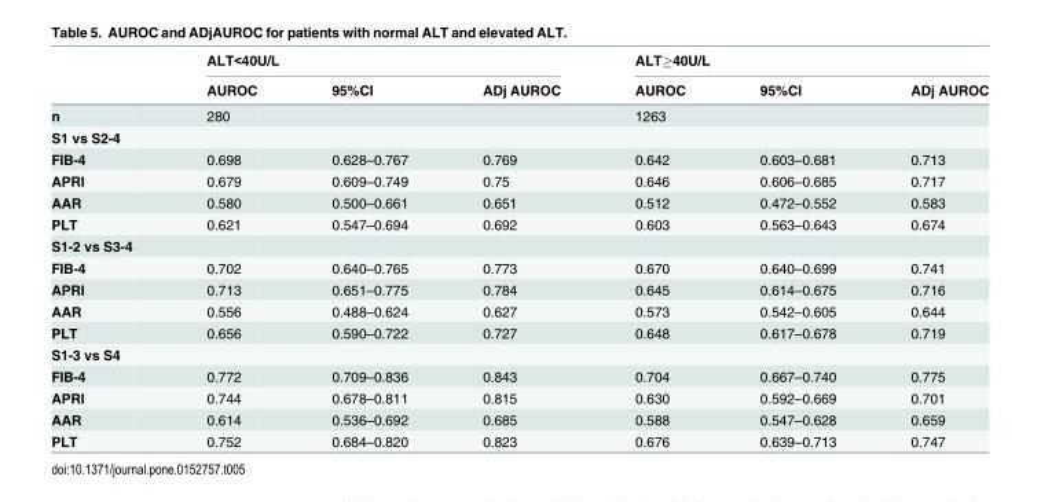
<table><thead><tr><td rowspan="2"></td><td colspan="3">ALT&lt;40U/L</td><td colspan="3">ALT≥40U/L</td></tr><tr><td>AUROC</td><td>95%CI</td><td>ADj AUROC</td><td>AUROC</td><td>95%CI</td><td>ADj AUROC</td></tr></thead><tbody><tr><td>n</td><td>280</td><td></td><td></td><td>1263</td><td></td><td></td></tr><tr><td colspan="7">S1 vs S2-4</td></tr><tr><td>FIB-4</td><td>0.698</td><td>0.628–0.767</td><td>0.769</td><td>0.642</td><td>0.603–0.681</td><td>0.713</td></tr><tr><td>APRI</td><td>0.679</td><td>0.609–0.749</td><td>0.75</td><td>0.646</td><td>0.606–0.685</td><td>0.717</td></tr><tr><td>AAR</td><td>0.580</td><td>0.500–0.661</td><td>0.651</td><td>0.512</td><td>0.472–0.552</td><td>0.583</td></tr><tr><td>PLT</td><td>0.621</td><td>0.547–0.694</td><td>0.692</td><td>0.603</td><td>0.563–0.643</td><td>0.674</td></tr><tr><td colspan="7">S1-2 vs S3-4</td></tr><tr><td>FIB-4</td><td>0.702</td><td>0.640–0.765</td><td>0.773</td><td>0.670</td><td>0.640–0.699</td><td>0.741</td></tr><tr><td>APRI</td><td>0.713</td><td>0.651–0.775</td><td>0.784</td><td>0.645</td><td>0.614–0.675</td><td>0.716</td></tr><tr><td>AAR</td><td>0.556</td><td>0.488–0.624</td><td>0.627</td><td>0.573</td><td>0.542–0.605</td><td>0.644</td></tr><tr><td>PLT</td><td>0.656</td><td>0.590–0.722</td><td>0.727</td><td>0.648</td><td>0.617–0.678</td><td>0.719</td></tr><tr><td colspan="7">S1-3 vs S4</td></tr><tr><td>FIB-4</td><td>0.772</td><td>0.709–0.836</td><td>0.843</td><td>0.704</td><td>0.667–0.740</td><td>0.775</td></tr><tr><td>APRI</td><td>0.744</td><td>0.678–0.811</td><td>0.815</td><td>0.630</td><td>0.592–0.669</td><td>0.701</td></tr><tr><td>AAR</td><td>0.614</td><td>0.536–0.692</td><td>0.685</td><td>0.588</td><td>0.547–0.628</td><td>0.659</td></tr><tr><td>PLT</td><td>0.752</td><td>0.684–0.820</td><td>0.823</td><td>0.676</td><td>0.639–0.713</td><td>0.747</td></tr></tbody></table>